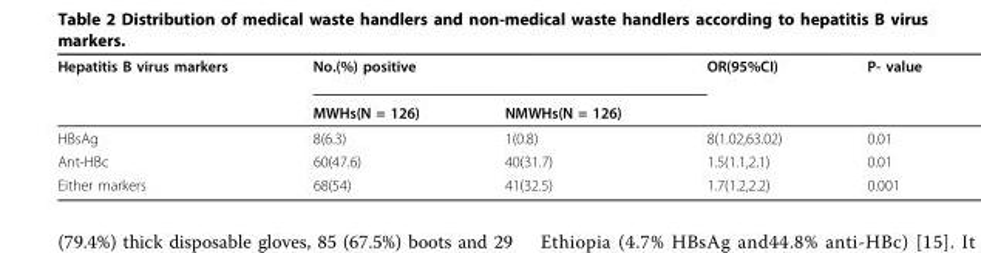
<table><thead><tr><td rowspan="2">Hepatitis B virus markers</td><td colspan="2">No.(%) positive</td><td rowspan="2">OR(95%CI)</td><td rowspan="2">P- value</td></tr><tr><td>MWHs(N = 126)</td><td>NMWHs(N = 126)</td></tr></thead><tbody><tr><td>HBsAg</td><td>8(6.3)</td><td>1(0.8)</td><td>8(1.02,63.02)</td><td>0.01</td></tr><tr><td>Ant-HBc</td><td>60(47.6)</td><td>40(31.7)</td><td>1.5(1.1,2.1)</td><td>0.01</td></tr><tr><td>Either markers</td><td>68(54)</td><td>41(32.5)</td><td>1.7(1.2,2.2)</td><td>0.001</td></tr></tbody></table>